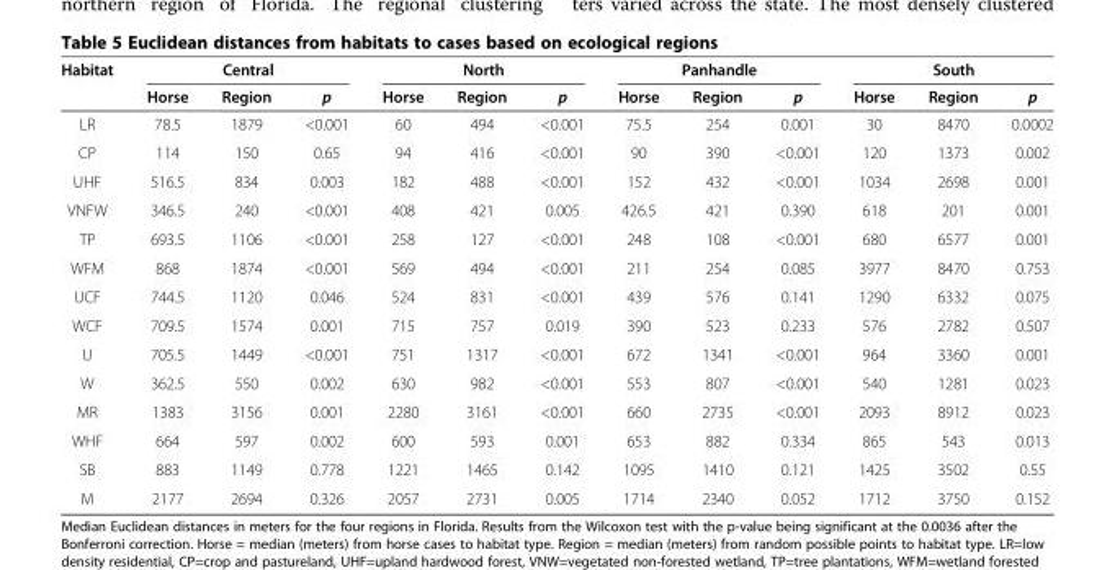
<table><thead><tr><td rowspan="2">Habitat</td><td colspan="3">Central</td><td colspan="3">North</td><td colspan="3">Panhandle</td><td colspan="3">South</td></tr><tr><td>Horse</td><td>Region</td><td>p</td><td>Horse</td><td>Region</td><td>p</td><td>Horse</td><td>Region</td><td>p</td><td>Horse</td><td>Region</td><td>p</td></tr></thead><tbody><tr><td>LR</td><td>78.5</td><td>1879</td><td>&lt;0.001</td><td>60</td><td>494</td><td>&lt;0.001</td><td>75.5</td><td>254</td><td>0.001</td><td>30</td><td>8470</td><td>0.0002</td></tr><tr><td>CP</td><td>114</td><td>150</td><td>0.65</td><td>94</td><td>416</td><td>&lt;0.001</td><td>90</td><td>390</td><td>&lt;0.001</td><td>120</td><td>1373</td><td>0.002</td></tr><tr><td>UHF</td><td>516.5</td><td>834</td><td>0.003</td><td>182</td><td>488</td><td>&lt;0.001</td><td>152</td><td>432</td><td>&lt;0.001</td><td>1034</td><td>2698</td><td>0.001</td></tr><tr><td>VNFW</td><td>346.5</td><td>240</td><td>&lt;0.001</td><td>408</td><td>421</td><td>0.005</td><td>426.5</td><td>421</td><td>0.390</td><td>618</td><td>201</td><td>0.001</td></tr><tr><td>TP</td><td>693.5</td><td>1106</td><td>&lt;0.001</td><td>258</td><td>127</td><td>&lt;0.001</td><td>248</td><td>108</td><td>&lt;0.001</td><td>680</td><td>6577</td><td>0.001</td></tr><tr><td>WFM</td><td>868</td><td>1874</td><td>&lt;0.001</td><td>569</td><td>494</td><td>&lt;0.001</td><td>211</td><td>254</td><td>0.085</td><td>3977</td><td>8470</td><td>0.753</td></tr><tr><td>UCF</td><td>744.5</td><td>1120</td><td>0.046</td><td>524</td><td>831</td><td>&lt;0.001</td><td>439</td><td>576</td><td>0.141</td><td>1290</td><td>6332</td><td>0.075</td></tr><tr><td>WCF</td><td>709.5</td><td>1574</td><td>0.001</td><td>715</td><td>757</td><td>0.019</td><td>390</td><td>523</td><td>0.233</td><td>576</td><td>2782</td><td>0.507</td></tr><tr><td>U</td><td>705.5</td><td>1449</td><td>&lt;0.001</td><td>751</td><td>1317</td><td>&lt;0.001</td><td>672</td><td>1341</td><td>&lt;0.001</td><td>964</td><td>3360</td><td>0.001</td></tr><tr><td>W</td><td>362.5</td><td>550</td><td>0.002</td><td>630</td><td>982</td><td>&lt;0.001</td><td>553</td><td>807</td><td>&lt;0.001</td><td>540</td><td>1281</td><td>0.023</td></tr><tr><td>MR</td><td>1383</td><td>3156</td><td>0.001</td><td>2280</td><td>3161</td><td>&lt;0.001</td><td>660</td><td>2735</td><td>&lt;0.001</td><td>2093</td><td>8912</td><td>0.023</td></tr><tr><td>WHF</td><td>664</td><td>597</td><td>0.002</td><td>600</td><td>593</td><td>0.001</td><td>653</td><td>882</td><td>0.334</td><td>865</td><td>543</td><td>0.013</td></tr><tr><td>SB</td><td>883</td><td>1149</td><td>0.778</td><td>1221</td><td>1465</td><td>0.142</td><td>1095</td><td>1410</td><td>0.121</td><td>1425</td><td>3502</td><td>0.55</td></tr><tr><td>M</td><td>2177</td><td>2694</td><td>0.326</td><td>2057</td><td>2731</td><td>0.005</td><td>1714</td><td>2340</td><td>0.052</td><td>1712</td><td>3750</td><td>0.152</td></tr></tbody></table>